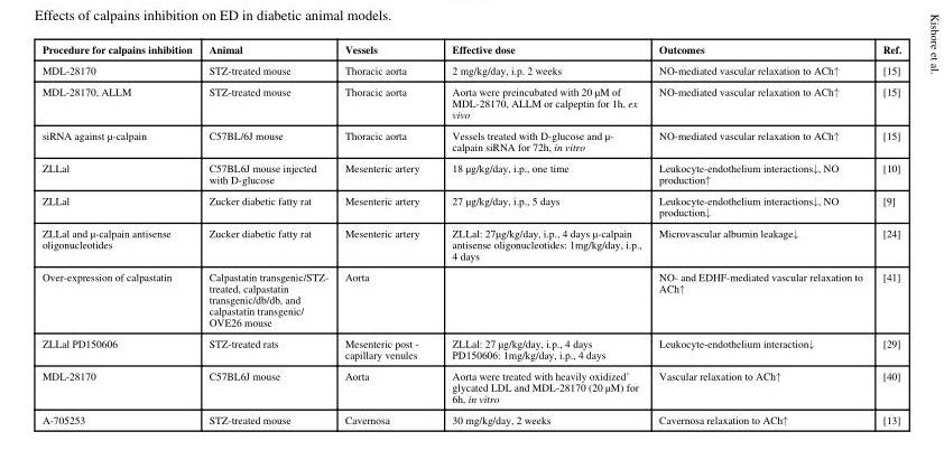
<table><thead><tr><td>Procedure for calpains inhibition</td><td>Animal</td><td>Vessels</td><td>Effective dose</td><td>Outcomes</td><td>Ref.</td></tr></thead><tbody><tr><td>MDL-28170</td><td>STZ-treated mouse</td><td>Thoracic aorta</td><td>2 mg/kg/day, i.p. 2 weeks</td><td>NO-mediated vascular relaxation to ACh↑</td><td>[15]</td></tr><tr><td>MDL-28170, ALLM</td><td>STZ-treated mouse</td><td>Thoracic aorta</td><td>Aorta were preincubated with 20 μM of MDL-28170, ALLM or calpeptin for 1h, ex vivo</td><td>NO-mediated vascular relaxation to ACh↑</td><td>[15]</td></tr><tr><td>siRNA against μ-calpain</td><td>C57BL/6J mouse</td><td>Thoracic aorta</td><td>Vessels treated with D-glucose and μ- calpain siRNA for 72h, in vitro</td><td>NO-mediated vascular relaxation to ACh↑</td><td>[15]</td></tr><tr><td>ZLLal</td><td>C57BL6J mouse injected with D-glucose</td><td>Mesenteric artery</td><td>18 μg/kg/day, i.p., one time</td><td>Leukocyte-endothelium interactions↓, NO production↑</td><td>[10]</td></tr><tr><td>ZLLal</td><td>Zucker diabetic fatty rat</td><td>Mesenteric artery</td><td>27 μg/kg/day, i.p., 5 days</td><td>Leukocyte-endothelium interactions↓, NO production↓</td><td>[9]</td></tr><tr><td>ZLLal and μ-calpain antisense oligonucleotides</td><td>Zucker diabetic fatty rat</td><td>Mesenteric artery</td><td>ZLLal: 27μg/kg/day, i.p., 4 days μ-calpain antisense oligonucleotides: 1mg/kg/day, i.p., 4 days</td><td>Microvascular albumin leakage↓</td><td>[24]</td></tr><tr><td>Over-expression of calpastatin</td><td>Calpastatin transgenic/STZ- treated, calpastatin transgenic/db/db, and calpastatin transgenic/ OVE26 mouse</td><td>Aorta</td><td></td><td>NO- and EDHF-mediated vascular relaxation to ACh↑</td><td>[41]</td></tr><tr><td>ZLLal PD150606</td><td>STZ-treated rats</td><td>Mesenteric post - capillary venules</td><td>ZLLal: 27 μg/kg/day, i.p., 4 days PD150606: 1mg/kg/day, i.p., 4 days</td><td>Leukocyte-endothelium interaction↓</td><td>[29]</td></tr><tr><td>MDL-28170</td><td>C57BL6J mouse</td><td>Aorta</td><td>Aorta were treated with heavily oxidized’ glycated LDL and MDL-28170 (20 μM) for 6h, in vitro</td><td>Vascular relaxation to ACh↑</td><td>[40]</td></tr><tr><td>A-705253</td><td>STZ-treated mouse</td><td>Cavernosa</td><td>30 mg/kg/day, 2 weeks</td><td>Cavernosa relaxation to ACh↑</td><td>[13]</td></tr></tbody></table>